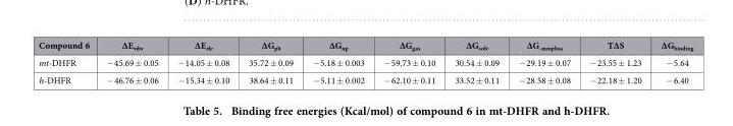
<table><thead><tr><td>Compound 6</td><td>∆E<sub>vdw</sub></td><td>∆E<sub>ele</sub></td><td>∆G<sub>pb</sub></td><td>∆G<sub>np</sub></td><td>∆G<sub>gas</sub></td><td>∆G<sub>solv</sub></td><td>∆G<sub>-mmpbsa</sub></td><td>T∆S</td><td>∆G<sub>binding</sub></td></tr></thead><tbody><tr><td>mt-DHFR</td><td>− 45.69 ± 0.05</td><td>− 14.05 ± 0.08</td><td>35.72 ± 0.09</td><td>− 5.18 ± 0.003</td><td>− 59.73 ± 0.10</td><td>30.54 ± 0.09</td><td>− 29.19 ± 0.07</td><td>− 23.55 ± 1.23</td><td>− 5.64</td></tr><tr><td>h-DHFR</td><td>− 46.76 ± 0.06</td><td>− 15.34 ± 0.10</td><td>38.64 ± 0.11</td><td>− 5.11 ± 0.002</td><td>− 62.10 ± 0.11</td><td>33.52 ± 0.11</td><td>− 28.58 ± 0.08</td><td>− 22.18 ± 1.20</td><td>− 6.40</td></tr></tbody></table>